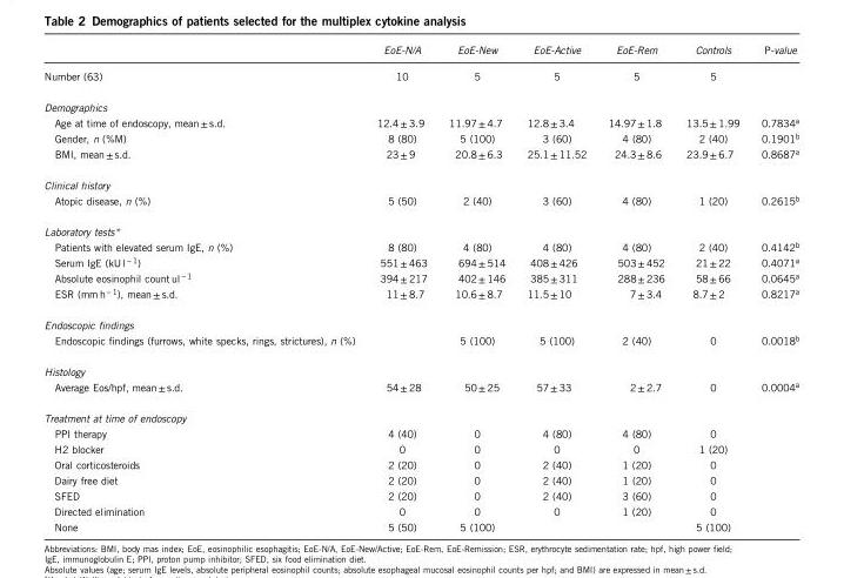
<table><thead><tr><td></td><td>EoE-N/A</td><td>EoE-New</td><td>EoE-Active</td><td>EoE-Rem</td><td>Controls</td><td>P-value</td></tr></thead><tbody><tr><td>Number (63)</td><td>10</td><td>5</td><td>5</td><td>5</td><td>5</td><td></td></tr><tr><td colspan="7">Demographics</td></tr><tr><td>Age at time of endoscopy, mean ± s.d.</td><td>12.4± 3.9</td><td>11.97± 4.7</td><td>12.8± 3.4</td><td>14.97± 1.8</td><td>13.5± 1.99</td><td>0.7834<sup>a</sup></td></tr><tr><td>Gender, n (%M)</td><td>8 (80)</td><td>5 (100)</td><td>3 (60)</td><td>4 (80)</td><td>2 (40)</td><td>0.1901<sup>b</sup></td></tr><tr><td>BMI, mean ± s.d.</td><td>23± 9</td><td>20.8± 6.3</td><td>25.1± 11.52</td><td>24.3± 8.6</td><td>23.9± 6.7</td><td>0.8687<sup>a</sup></td></tr><tr><td colspan="7">Clinical history</td></tr><tr><td>Atopic disease, n (%)</td><td>5 (50)</td><td>2 (40)</td><td>3 (60)</td><td>4 (80)</td><td>1 (20)</td><td>0.2615<sup>b</sup></td></tr><tr><td colspan="7">Laboratory tests*</td></tr><tr><td>Patients with elevated serum IgE, n (%)</td><td>8 (80)</td><td>4 (80)</td><td>4 (80)</td><td>4 (80)</td><td>2 (40)</td><td>0.4142<sup>b</sup></td></tr><tr><td>Serum IgE (kU l <sup>− 1</sup>)</td><td>551 ± 463</td><td>694± 514</td><td>408± 426</td><td>503± 452</td><td>21± 22</td><td>0.4071<sup>a</sup></td></tr><tr><td>Absolute eosinophil count ul<sup>− 1</sup></td><td>394 ± 217</td><td>402± 146</td><td>385± 311</td><td>288± 236</td><td>58± 66</td><td>0.0645<sup>a</sup></td></tr><tr><td>ESR (mm h <sup>− 1</sup>), mean ± s.d.</td><td>11± 8.7</td><td>10.6± 8.7</td><td>11.5± 10</td><td>7± 3.4</td><td>8.7± 2</td><td>0.8217<sup>a</sup></td></tr><tr><td colspan="7">Endoscopic findings</td></tr><tr><td>Endoscopic findings (furrows, white specks, rings, strictures), n (%)</td><td></td><td>5 (100)</td><td>5 (100)</td><td>2 (40)</td><td>0</td><td>0.0018<sup>b</sup></td></tr><tr><td colspan="7">Histology</td></tr><tr><td>Average Eos/hpf, mean ± s.d.</td><td>54± 28</td><td>50± 25</td><td>57± 33</td><td>2± 2.7</td><td>0</td><td>0.0004<sup>a</sup></td></tr><tr><td colspan="7">Treatment at time of endoscopy</td></tr><tr><td>PPI therapy</td><td>4 (40)</td><td>0</td><td>4 (80)</td><td>4 (80)</td><td>0</td><td></td></tr><tr><td>H2 blocker</td><td>0</td><td>0</td><td>0</td><td>0</td><td>1 (20)</td><td></td></tr><tr><td>Oral corticosteroids</td><td>2 (20)</td><td>0</td><td>2 (40)</td><td>1 (20)</td><td>0</td><td></td></tr><tr><td>Dairy free diet</td><td>2 (20)</td><td>0</td><td>2 (40)</td><td>1 (20)</td><td>0</td><td></td></tr><tr><td>SFED</td><td>2 (20)</td><td>0</td><td>2 (40)</td><td>3 (60)</td><td>0</td><td></td></tr><tr><td>Directed elimination</td><td>0</td><td>0</td><td>0</td><td>1 (20)</td><td>0</td><td></td></tr><tr><td>None</td><td>5 (50)</td><td>5 (100)</td><td></td><td></td><td>5 (100)</td><td></td></tr></tbody></table>